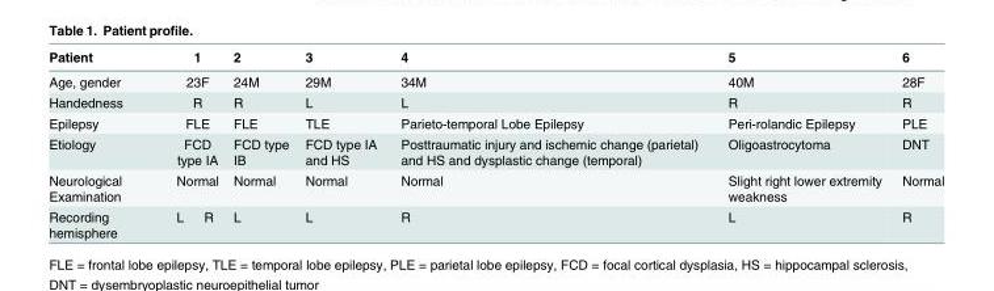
<table><thead><tr><td>Patient</td><td colspan="2">1</td><td>2</td><td>3</td><td>4</td><td>5</td><td>6</td></tr></thead><tbody><tr><td>Age, gender</td><td colspan="2">23F</td><td>24M</td><td>29M</td><td>34M</td><td>40M</td><td>28F</td></tr><tr><td>Handedness</td><td colspan="2">R</td><td>R</td><td>L</td><td>L</td><td>R</td><td>R</td></tr><tr><td>Epilepsy</td><td colspan="2">FLE</td><td>FLE</td><td>TLE</td><td>Parieto-temporal Lobe Epilepsy</td><td>Peri-rolandic Epilepsy</td><td>PLE</td></tr><tr><td>Etiology</td><td colspan="2">FCD type IA</td><td>FCD type IB</td><td>FCD type IA and HS</td><td>Posttraumatic injury and ischemic change (parietal) and HS and dysplastic change (temporal)</td><td>Oligoastrocytoma</td><td>DNT</td></tr><tr><td>Neurological Examination</td><td colspan="2">Normal</td><td>Normal</td><td>Normal</td><td>Normal</td><td>Slight right lower extremity weakness</td><td>Normal</td></tr><tr><td>Recording hemisphere</td><td>L</td><td>R</td><td>L</td><td>L</td><td>R</td><td>L</td><td>R</td></tr></tbody></table>